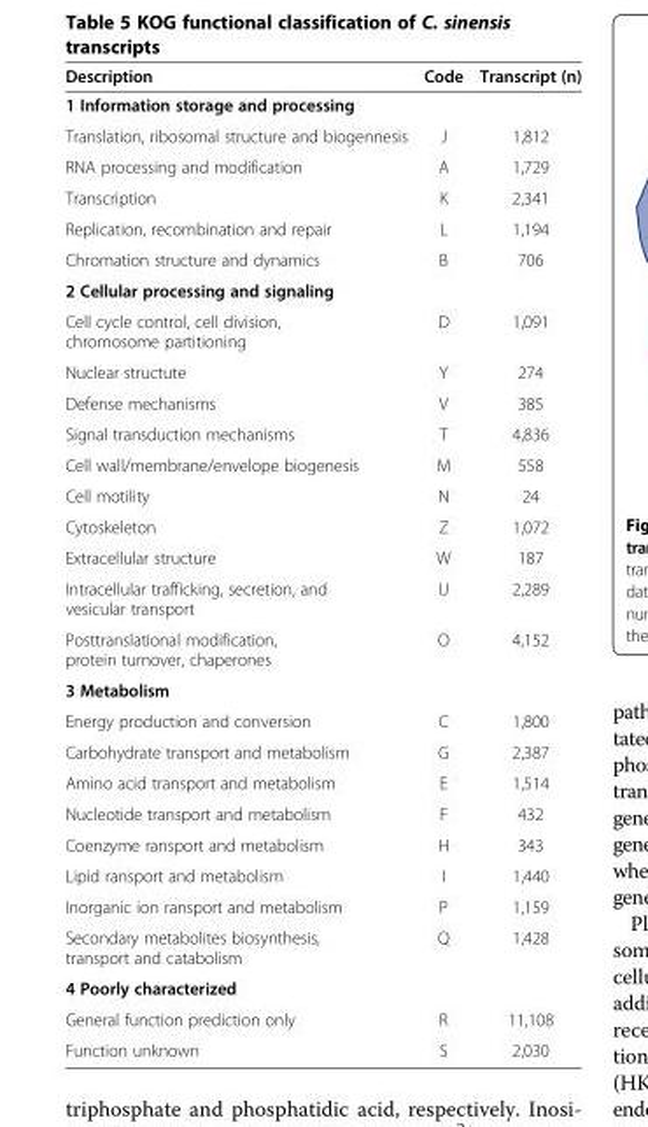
<table><thead><tr><td>Description</td><td>Code</td><td>Transcript (n)</td></tr></thead><tbody><tr><td colspan="3">1 Information storage and processing</td></tr><tr><td>Translation, ribosomal structure and biogennesis</td><td>J</td><td>1,812</td></tr><tr><td>RNA processing and modification</td><td>A</td><td>1,729</td></tr><tr><td>Transcription</td><td>K</td><td>2,341</td></tr><tr><td>Replication, recombination and repair</td><td>L</td><td>1,194</td></tr><tr><td>Chromation structure and dynamics</td><td>B</td><td>706</td></tr><tr><td colspan="3">2 Cellular processing and signaling</td></tr><tr><td>Cell cycle control, cell division, chromosome partitioning</td><td>D</td><td>1,091</td></tr><tr><td>Nuclear structute</td><td>Y</td><td>274</td></tr><tr><td>Defense mechanisms</td><td>V</td><td>385</td></tr><tr><td>Signal transduction mechanisms</td><td>T</td><td>4,836</td></tr><tr><td>Cell wall/membrane/envelope biogenesis</td><td>M</td><td>558</td></tr><tr><td>Cell motility</td><td>N</td><td>24</td></tr><tr><td>Cytoskeleton</td><td>Z</td><td>1,072</td></tr><tr><td>Extracellular structure</td><td>W</td><td>187</td></tr><tr><td>Intracellular trafficking, secretion, and vesicular transport</td><td>U</td><td>2,289</td></tr><tr><td>Posttranslational modification, protein turnover, chaperones</td><td>O</td><td>4,152</td></tr><tr><td colspan="3">3 Metabolism</td></tr><tr><td>Energy production and conversion</td><td>C</td><td>1,800</td></tr><tr><td>Carbohydrate transport and metabolism</td><td>G</td><td>2,387</td></tr><tr><td>Amino acid transport and metabolism</td><td>E</td><td>1,514</td></tr><tr><td>Nucleotide transport and metabolism</td><td>F</td><td>432</td></tr><tr><td>Coenzyme ransport and metabolism</td><td>H</td><td>343</td></tr><tr><td>Lipid ransport and metabolism</td><td>I</td><td>1,440</td></tr><tr><td>Inorganic ion ransport and metabolism</td><td>P</td><td>1,159</td></tr><tr><td>Secondary metabolites biosynthesis, transport and catabolism</td><td>Q</td><td>1,428</td></tr><tr><td colspan="3">4 Poorly characterized</td></tr><tr><td>General function prediction only</td><td>R</td><td>11,108</td></tr><tr><td>Function unknown</td><td>S</td><td>2,030</td></tr></tbody></table>